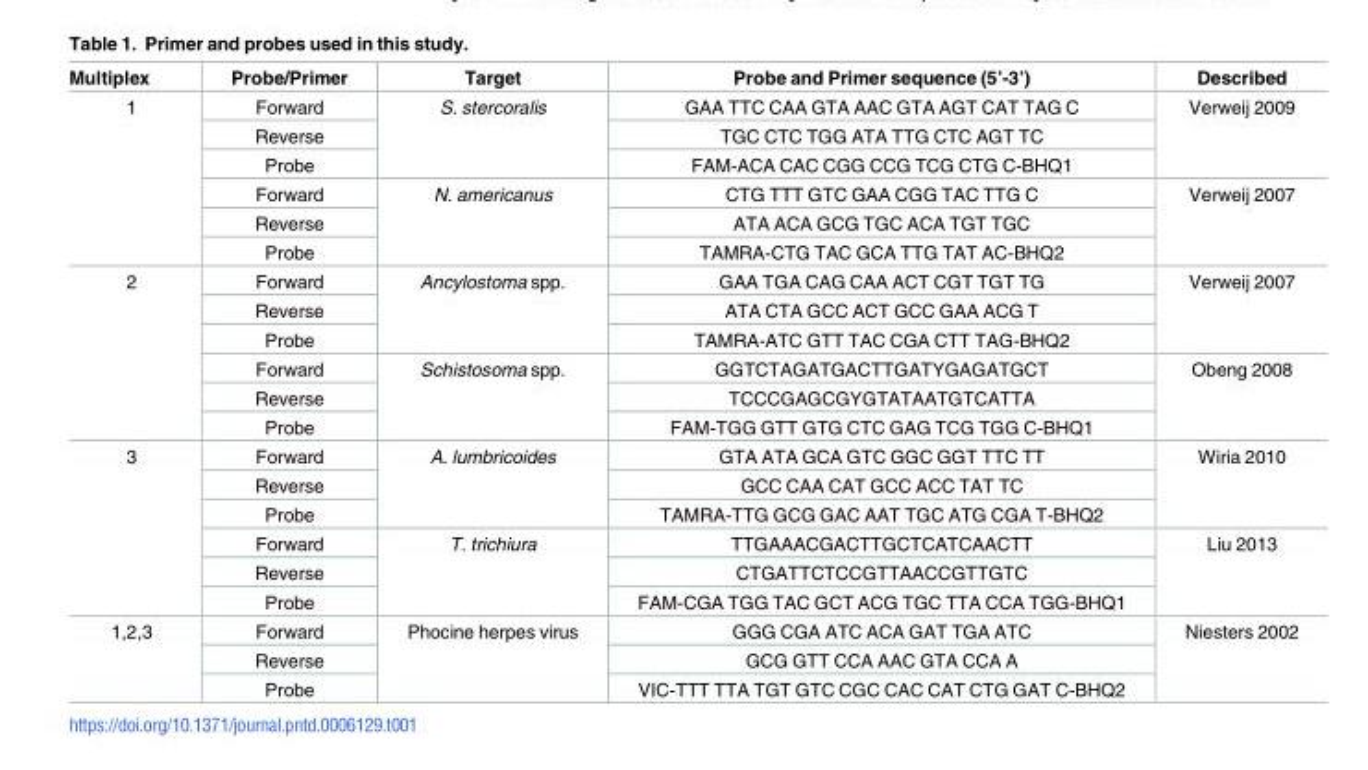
<table><thead><tr><td>Multiplex</td><td>Probe/Primer</td><td>Target</td><td>Probe and Primer sequence (5’-3’)</td><td>Described</td></tr></thead><tbody><tr><td rowspan="6">1</td><td>Forward</td><td rowspan="3">S. stercoralis</td><td>GAA TTC CAA GTA AAC GTA AGT CAT TAG C</td><td rowspan="3">Verweij 2009</td></tr><tr><td>Reverse</td><td>TGC CTC TGG ATA TTG CTC AGT TC</td></tr><tr><td>Probe</td><td>FAM-ACA CAC CGG CCG TCG CTG C-BHQ1</td></tr><tr><td>Forward</td><td rowspan="3">N. americanus</td><td>CTG TTT GTC GAA CGG TAC TTG C</td><td rowspan="3">Verweij 2007</td></tr><tr><td>Reverse</td><td>ATA ACA GCG TGC ACA TGT TGC</td></tr><tr><td>Probe</td><td>TAMRA-CTG TAC GCA TTG TAT AC-BHQ2</td></tr><tr><td rowspan="6">2</td><td>Forward</td><td rowspan="3">Ancylostoma spp.</td><td>GAA TGA CAG CAA ACT CGT TGT TG</td><td rowspan="3">Verweij 2007</td></tr><tr><td>Reverse</td><td>ATA CTA GCC ACT GCC GAA ACG T</td></tr><tr><td>Probe</td><td>TAMRA-ATC GTT TAC CGA CTT TAG-BHQ2</td></tr><tr><td>Forward</td><td rowspan="3">Schistosoma spp.</td><td>GGTCTAGATGACTTGATYGAGATGCT</td><td rowspan="3">Obeng 2008</td></tr><tr><td>Reverse</td><td>TCCCGAGCGYGTATAATGTCATTA</td></tr><tr><td>Probe</td><td>FAM-TGG GTT GTG CTC GAG TCG TGG C-BHQ1</td></tr><tr><td rowspan="6">3</td><td>Forward</td><td rowspan="3">A. lumbricoides</td><td>GTA ATA GCA GTC GGC GGT TTC TT</td><td rowspan="3">Wiria 2010</td></tr><tr><td>Reverse</td><td>GCC CAA CAT GCC ACC TAT TC</td></tr><tr><td>Probe</td><td>TAMRA-TTG GCG GAC AAT TGC ATG CGA T-BHQ2</td></tr><tr><td>Forward</td><td rowspan="3">T. trichiura</td><td>TTGAAACGACTTGCTCATCAACTT</td><td rowspan="3">Liu 2013</td></tr><tr><td>Reverse</td><td>CTGATTCTCCGTTAACCGTTGTC</td></tr><tr><td>Probe</td><td>FAM-CGA TGG TAC GCT ACG TGC TTA CCA TGG-BHQ1</td></tr><tr><td rowspan="3">1,2,3</td><td>Forward</td><td rowspan="3">Phocine herpes virus</td><td>GGG CGA ATC ACA GAT TGA ATC</td><td rowspan="3">Niesters 2002</td></tr><tr><td>Reverse</td><td>GCG GTT CCA AAC GTA CCA A</td></tr><tr><td>Probe</td><td>VIC-TTT TTA TGT GTC CGC CAC CAT CTG GAT C-BHQ2</td></tr></tbody></table>